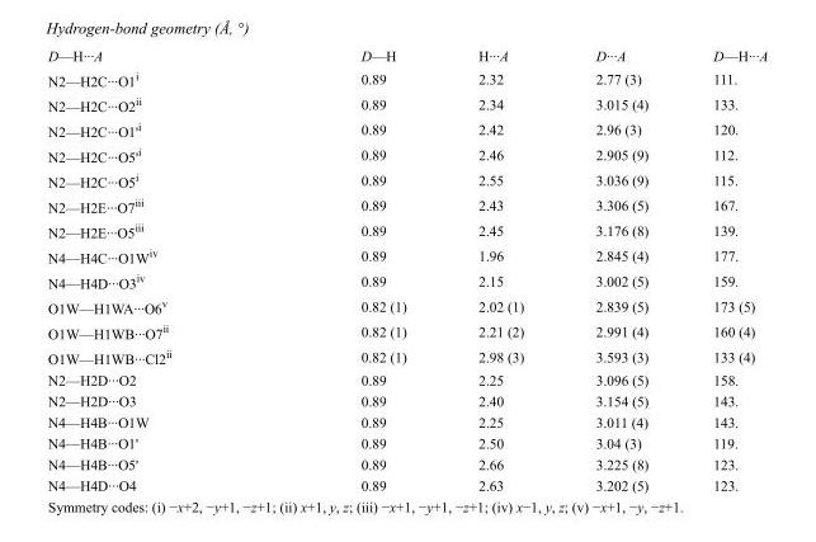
<table><tbody><tr><td>D—H···A</td><td>D—H</td><td>H···A</td><td>D···A</td><td>D—H···A</td></tr><tr><td>N2—H2C···O1<sup>i</sup></td><td>0.89</td><td>2.32</td><td>2.77 (3)</td><td>111.</td></tr><tr><td>N2—H2C···O2<sup>ii</sup></td><td>0.89</td><td>2.34</td><td>3.015 (4)</td><td>133.</td></tr><tr><td>N2—H2C···O1&#x27;<sup>i</sup></td><td>0.89</td><td>2.42</td><td>2.96 (3)</td><td>120.</td></tr><tr><td>N2—H2C···O5&#x27;<sup>i</sup></td><td>0.89</td><td>2.46</td><td>2.905 (9)</td><td>112.</td></tr><tr><td>N2—H2C···O5<sup>i</sup></td><td>0.89</td><td>2.55</td><td>3.036 (9)</td><td>115.</td></tr><tr><td>N2—H2E···O7<sup>iii</sup></td><td>0.89</td><td>2.43</td><td>3.306 (5)</td><td>167.</td></tr><tr><td>N2—H2E···O5<sup>iii</sup></td><td>0.89</td><td>2.45</td><td>3.176 (8)</td><td>139.</td></tr><tr><td>N4—H4C···O1W<sup>iv</sup></td><td>0.89</td><td>1.96</td><td>2.845 (4)</td><td>177.</td></tr><tr><td>N4—H4D···O3<sup>iv</sup></td><td>0.89</td><td>2.15</td><td>3.002 (5)</td><td>159.</td></tr><tr><td>O1W—H1WA···O6<sup>v</sup></td><td>0.82 (1)</td><td>2.02 (1)</td><td>2.839 (5)</td><td>173 (5)</td></tr><tr><td>O1W—H1WB···O7<sup>ii</sup></td><td>0.82 (1)</td><td>2.21 (2)</td><td>2.991 (4)</td><td>160 (4)</td></tr><tr><td>O1W—H1WB···Cl2<sup>ii</sup></td><td>0.82 (1)</td><td>2.98 (3)</td><td>3.593 (3)</td><td>133 (4)</td></tr><tr><td>N2—H2D···O2</td><td>0.89</td><td>2.25</td><td>3.096 (5)</td><td>158.</td></tr><tr><td>N2—H2D···O3</td><td>0.89</td><td>2.40</td><td>3.154 (5)</td><td>143.</td></tr><tr><td>N4—H4B···O1W</td><td>0.89</td><td>2.25</td><td>3.011 (4)</td><td>143.</td></tr><tr><td>N4—H4B···O1&#x27;</td><td>0.89</td><td>2.50</td><td>3.04 (3)</td><td>119.</td></tr><tr><td>N4—H4B···O5&#x27;</td><td>0.89</td><td>2.66</td><td>3.225 (8)</td><td>123.</td></tr><tr><td>N4—H4D···O4</td><td>0.89</td><td>2.63</td><td>3.202 (5)</td><td>123.</td></tr></tbody></table>